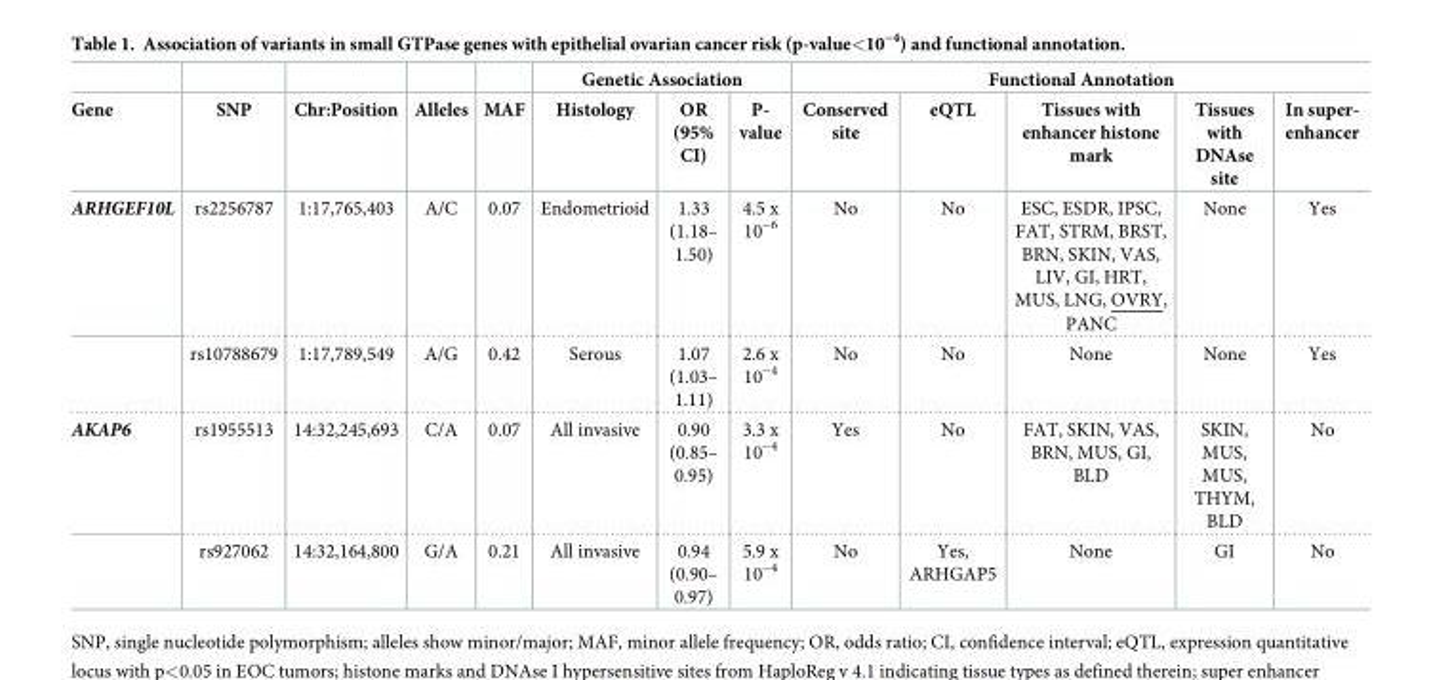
<table><thead><tr><td rowspan="2">Gene</td><td rowspan="2">SNP</td><td rowspan="2">Chr:Position</td><td rowspan="2">Alleles</td><td rowspan="2">MAF</td><td colspan="3">Genetic Association</td><td colspan="5">Functional Annotation</td></tr><tr><td>Histology</td><td>OR (95% CI)</td><td>P- value</td><td>Conserved site</td><td>eQTL</td><td>Tissues with enhancer histone mark</td><td>Tissues with DNAse site</td><td>In super- enhancer</td></tr></thead><tbody><tr><td rowspan="2">ARHGEF10L</td><td>rs2256787</td><td>1:17,765,403</td><td>A/C</td><td>0.07</td><td>Endometrioid</td><td>1.33 (1.18– 1.50)</td><td>4.5 x 10<sup>−6</sup></td><td>No</td><td>No</td><td>ESC, ESDR, IPSC, FAT, STRM, BRST, BRN, SKIN, VAS, LIV, GI, HRT, MUS, LNG, OVRY, PANC</td><td>None</td><td>Yes</td></tr><tr><td>rs10788679</td><td>1:17,789,549</td><td>A/G</td><td>0.42</td><td>Serous</td><td>1.07 (1.03– 1.11)</td><td>2.6 x 10<sup>−4</sup></td><td>No</td><td>No</td><td>None</td><td>None</td><td>Yes</td></tr><tr><td rowspan="2">AKAP6</td><td>rs1955513</td><td>14:32,245,693</td><td>C/A</td><td>0.07</td><td>All invasive</td><td>0.90 (0.85– 0.95)</td><td>3.3 x 10<sup>−4</sup></td><td>Yes</td><td>No</td><td>FAT, SKIN, VAS, BRN, MUS, GI, BLD</td><td>SKIN, MUS, MUS, THYM, BLD</td><td>No</td></tr><tr><td>rs927062</td><td>14:32,164,800</td><td>G/A</td><td>0.21</td><td>All invasive</td><td>0.94 (0.90– 0.97)</td><td>5.9 x 10<sup>−4</sup></td><td>No</td><td>Yes, ARHGAP5</td><td>None</td><td>GI</td><td>No</td></tr></tbody></table>